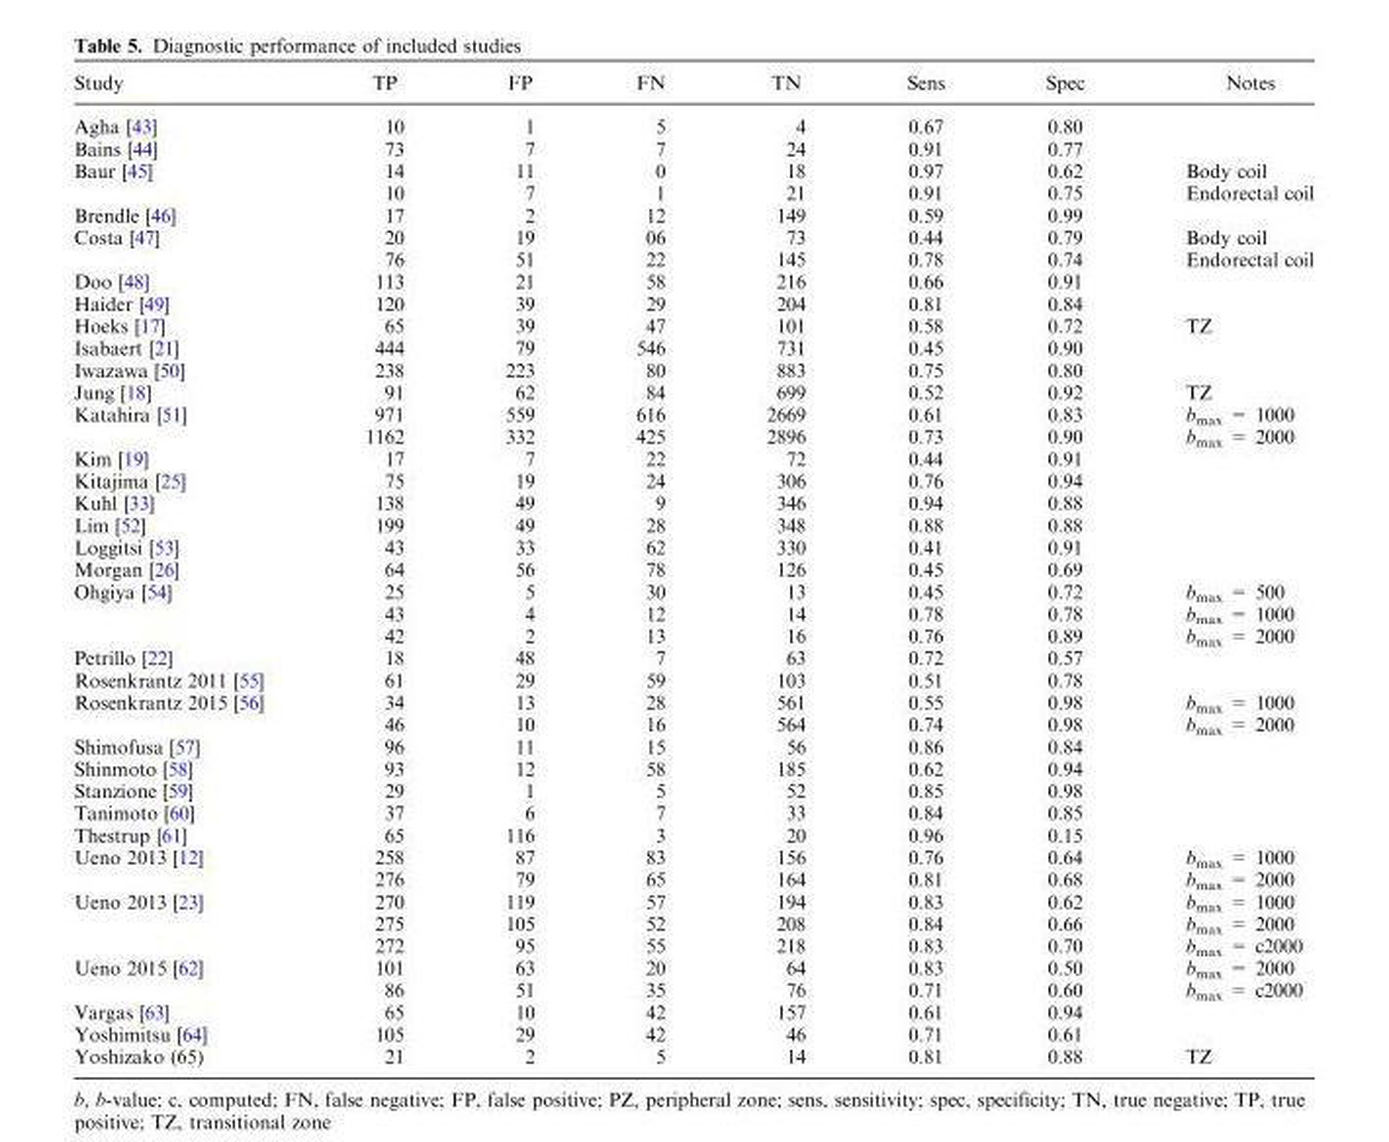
<table><thead><tr><td>Study</td><td>TP</td><td>FP</td><td>FN</td><td>TN</td><td>Sens</td><td>Spec</td><td>Notes</td></tr></thead><tbody><tr><td>Agha [43]</td><td>10</td><td>1</td><td>5</td><td>4</td><td>0.67</td><td>0.80</td><td></td></tr><tr><td>Bains [44]</td><td>73</td><td>7</td><td>7</td><td>24</td><td>0.91</td><td>0.77</td><td></td></tr><tr><td rowspan="2">Baur [45]</td><td>14</td><td>11</td><td>0</td><td>18</td><td>0.97</td><td>0.62</td><td>Body coil</td></tr><tr><td>10</td><td>7</td><td>1</td><td>21</td><td>0.91</td><td>0.75</td><td>Endorectal coil</td></tr><tr><td>Brendle [46]</td><td>17</td><td>2</td><td>12</td><td>149</td><td>0.59</td><td>0.99</td><td></td></tr><tr><td rowspan="2">Costa [47]</td><td>20</td><td>19</td><td>06</td><td>73</td><td>0.44</td><td>0.79</td><td>Body coil</td></tr><tr><td>76</td><td>51</td><td>22</td><td>145</td><td>0.78</td><td>0.74</td><td>Endorectal coil</td></tr><tr><td>Doo [48]</td><td>113</td><td>21</td><td>58</td><td>216</td><td>0.66</td><td>0.91</td><td></td></tr><tr><td>Haider [49]</td><td>120</td><td>39</td><td>29</td><td>204</td><td>0.81</td><td>0.84</td><td></td></tr><tr><td>Hoeks [17]</td><td>65</td><td>39</td><td>47</td><td>101</td><td>0.58</td><td>0.72</td><td>TZ</td></tr><tr><td>Isabaert [21]</td><td>444</td><td>79</td><td>546</td><td>731</td><td>0.45</td><td>0.90</td><td></td></tr><tr><td>Iwazawa [50]</td><td>238</td><td>223</td><td>80</td><td>883</td><td>0.75</td><td>0.80</td><td></td></tr><tr><td>Jung [18]</td><td>91</td><td>62</td><td>84</td><td>699</td><td>0.52</td><td>0.92</td><td>TZ</td></tr><tr><td rowspan="2">Katahira [51]</td><td>971</td><td>559</td><td>616</td><td>2669</td><td>0.61</td><td>0.83</td><td>b<sub>max</sub> = 1000</td></tr><tr><td>1162</td><td>332</td><td>425</td><td>2896</td><td>0.73</td><td>0.90</td><td>b<sub>max</sub> = 2000</td></tr><tr><td>Kim [19]</td><td>17</td><td>7</td><td>22</td><td>72</td><td>0.44</td><td>0.91</td><td></td></tr><tr><td>Kitajima [25]</td><td>75</td><td>19</td><td>24</td><td>306</td><td>0.76</td><td>0.94</td><td></td></tr><tr><td>Kuhl [33]</td><td>138</td><td>49</td><td>9</td><td>346</td><td>0.94</td><td>0.88</td><td></td></tr><tr><td>Lim [52]</td><td>199</td><td>49</td><td>28</td><td>348</td><td>0.88</td><td>0.88</td><td></td></tr><tr><td>Loggitsi [53]</td><td>43</td><td>33</td><td>62</td><td>330</td><td>0.41</td><td>0.91</td><td></td></tr><tr><td>Morgan [26]</td><td>64</td><td>56</td><td>78</td><td>126</td><td>0.45</td><td>0.69</td><td></td></tr><tr><td rowspan="3">Ohgiya [54]</td><td>25</td><td>5</td><td>30</td><td>13</td><td>0.45</td><td>0.72</td><td>b<sub>max</sub> = 500</td></tr><tr><td>43</td><td>4</td><td>12</td><td>14</td><td>0.78</td><td>0.78</td><td>b<sub>max</sub> = 1000</td></tr><tr><td>42</td><td>2</td><td>13</td><td>16</td><td>0.76</td><td>0.89</td><td>b<sub>max</sub> = 2000</td></tr><tr><td>Petrillo [22]</td><td>18</td><td>48</td><td>7</td><td>63</td><td>0.72</td><td>0.57</td><td></td></tr><tr><td>Rosenkrantz 2011 [55]</td><td>61</td><td>29</td><td>59</td><td>103</td><td>0.51</td><td>0.78</td><td></td></tr><tr><td rowspan="2">Rosenkrantz 2015 [56]</td><td>34</td><td>13</td><td>28</td><td>561</td><td>0.55</td><td>0.98</td><td>b<sub>max</sub> = 1000</td></tr><tr><td>46</td><td>10</td><td>16</td><td>564</td><td>0.74</td><td>0.98</td><td>b<sub>max</sub> = 2000</td></tr><tr><td>Shimofusa [57]</td><td>96</td><td>11</td><td>15</td><td>56</td><td>0.86</td><td>0.84</td><td></td></tr><tr><td>Shinmoto [58]</td><td>93</td><td>12</td><td>58</td><td>185</td><td>0.62</td><td>0.94</td><td></td></tr><tr><td>Stanzione [59]</td><td>29</td><td>1</td><td>5</td><td>52</td><td>0.85</td><td>0.98</td><td></td></tr><tr><td>Tanimoto [60]</td><td>37</td><td>6</td><td>7</td><td>33</td><td>0.84</td><td>0.85</td><td></td></tr><tr><td>Thestrup [61]</td><td>65</td><td>116</td><td>3</td><td>20</td><td>0.96</td><td>0.15</td><td></td></tr><tr><td rowspan="2">Ueno 2013 [12]</td><td>258</td><td>87</td><td>83</td><td>156</td><td>0.76</td><td>0.64</td><td>b<sub>max</sub> = 1000</td></tr><tr><td>276</td><td>79</td><td>65</td><td>164</td><td>0.81</td><td>0.68</td><td>b<sub>max</sub> = 2000</td></tr><tr><td rowspan="3">Ueno 2013 [23]</td><td>270</td><td>119</td><td>57</td><td>194</td><td>0.83</td><td>0.62</td><td>b<sub>max</sub> = 1000</td></tr><tr><td>275</td><td>105</td><td>52</td><td>208</td><td>0.84</td><td>0.66</td><td>b<sub>max</sub> = 2000</td></tr><tr><td>272</td><td>95</td><td>55</td><td>218</td><td>0.83</td><td>0.70</td><td>b<sub>max</sub> = c2000</td></tr><tr><td rowspan="2">Ueno 2015 [62]</td><td>101</td><td>63</td><td>20</td><td>64</td><td>0.83</td><td>0.50</td><td>b<sub>max</sub> = 2000</td></tr><tr><td>86</td><td>51</td><td>35</td><td>76</td><td>0.71</td><td>0.60</td><td>b<sub>max</sub> = c2000</td></tr><tr><td>Vargas [63]</td><td>65</td><td>10</td><td>42</td><td>157</td><td>0.61</td><td>0.94</td><td></td></tr><tr><td>Yoshimitsu [64]</td><td>105</td><td>29</td><td>42</td><td>46</td><td>0.71</td><td>0.61</td><td></td></tr><tr><td>Yoshizako (65)</td><td>21</td><td>2</td><td>5</td><td>14</td><td>0.81</td><td>0.88</td><td>TZ</td></tr></tbody></table>